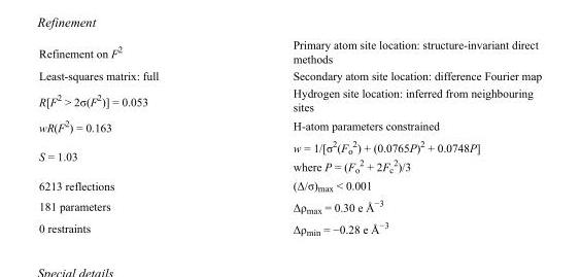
<table><tbody><tr><td>Refinement on F<sup>2</sup></td><td>Primary atom site location: structure-invariant direct methods</td></tr><tr><td>Least-squares matrix: full</td><td>Secondary atom site location: difference Fourier map</td></tr><tr><td>R[F<sup>2</sup> &gt; 2σ(F<sup>2</sup>)] = 0.053</td><td>Hydrogen site location: inferred from neighbouring sites</td></tr><tr><td>wR(F<sup>2</sup>) = 0.163</td><td>H-atom parameters constrained</td></tr><tr><td>S = 1.03</td><td>w = 1/[σ<sup>2</sup>(F<sub>o</sub> <sup>2</sup>) + (0.0765P)<sup>2</sup> + 0.0748P] where P = (F<sub>o</sub> <sup>2</sup> + 2F<sub>c</sub> <sup>2</sup>)/3</td></tr><tr><td>6213 reflections</td><td>(Δ/σ)<sub>max</sub> &lt; 0.001</td></tr><tr><td>181 parameters</td><td>Δρ<sub>max</sub> = 0.30 e Å<sup>−3</sup></td></tr><tr><td>0 restraints</td><td>Δρ<sub>min</sub> = −0.28 e Å<sup>−3</sup></td></tr></tbody></table>